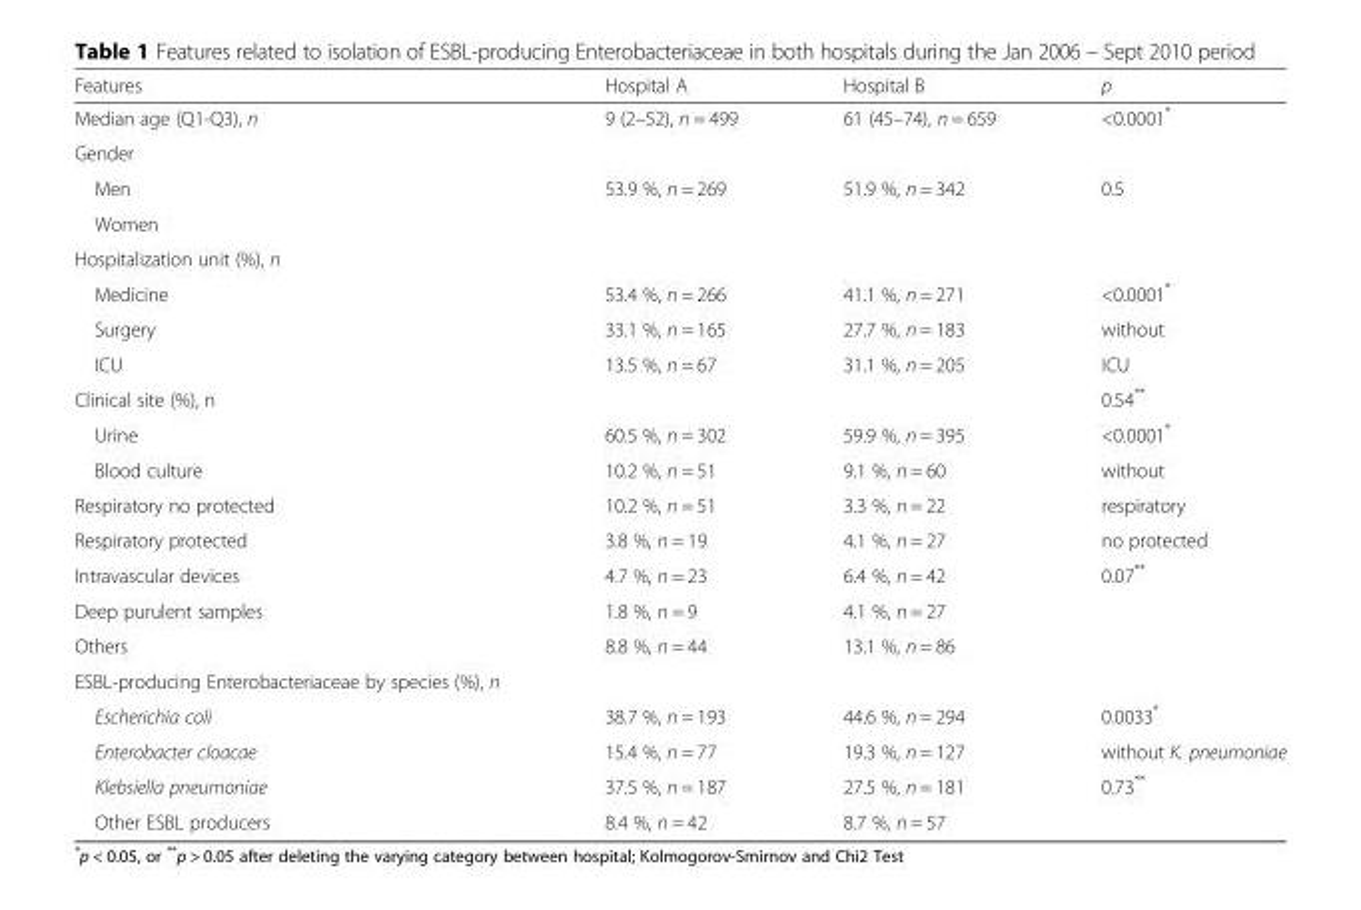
<table><thead><tr><td>Features</td><td>Hospital A</td><td>Hospital B</td><td>p</td></tr></thead><tbody><tr><td>Median age (Q1-Q3), n</td><td>9 (2–52), n = 499</td><td>61 (45–74), n = 659</td><td>&lt;0.0001*</td></tr><tr><td colspan="4">Gender</td></tr><tr><td>Men</td><td>53.9 %, n = 269</td><td>51.9 %, n = 342</td><td>0.5</td></tr><tr><td colspan="4">Women</td></tr><tr><td colspan="4">Hospitalization unit (%), n</td></tr><tr><td>Medicine</td><td>53.4 %, n = 266</td><td>41.1 %, n = 271</td><td>&lt;0.0001*</td></tr><tr><td>Surgery</td><td>33.1 %, n = 165</td><td>27.7 %, n = 183</td><td>without</td></tr><tr><td>ICU</td><td>13.5 %, n = 67</td><td>31.1 %, n = 205</td><td>ICU</td></tr><tr><td>Clinical site (%), n</td><td></td><td></td><td>0.54**</td></tr><tr><td>Urine</td><td>60.5 %, n = 302</td><td>59.9 %, n = 395</td><td>&lt;0.0001*</td></tr><tr><td>Blood culture</td><td>10.2 %, n = 51</td><td>9.1 %, n = 60</td><td>without</td></tr><tr><td>Respiratory no protected</td><td>10.2 %, n = 51</td><td>3.3 %, n = 22</td><td>respiratory</td></tr><tr><td>Respiratory protected</td><td>3.8 %, n = 19</td><td>4.1 %, n = 27</td><td>no protected</td></tr><tr><td>Intravascular devices</td><td>4.7 %, n = 23</td><td>6.4 %, n = 42</td><td>0.07**</td></tr><tr><td>Deep purulent samples</td><td>1.8 %, n = 9</td><td>4.1 %, n = 27</td><td></td></tr><tr><td>Others</td><td>8.8 %, n = 44</td><td>13.1 %, n = 86</td><td></td></tr><tr><td colspan="4">ESBL-producing Enterobacteriaceae by species (%), n</td></tr><tr><td>Escherichia coli</td><td>38.7 %, n = 193</td><td>44.6 %, n = 294</td><td>0.0033*</td></tr><tr><td>Enterobacter cloacae</td><td>15.4 %, n = 77</td><td>19.3 %, n = 127</td><td>without K. pneumoniae</td></tr><tr><td>Klebsiella pneumoniae</td><td>37.5 %, n = 187</td><td>27.5 %, n = 181</td><td>0.73**</td></tr><tr><td>Other ESBL producers</td><td>8.4 %, n = 42</td><td>8.7 %, n = 57</td><td></td></tr></tbody></table>